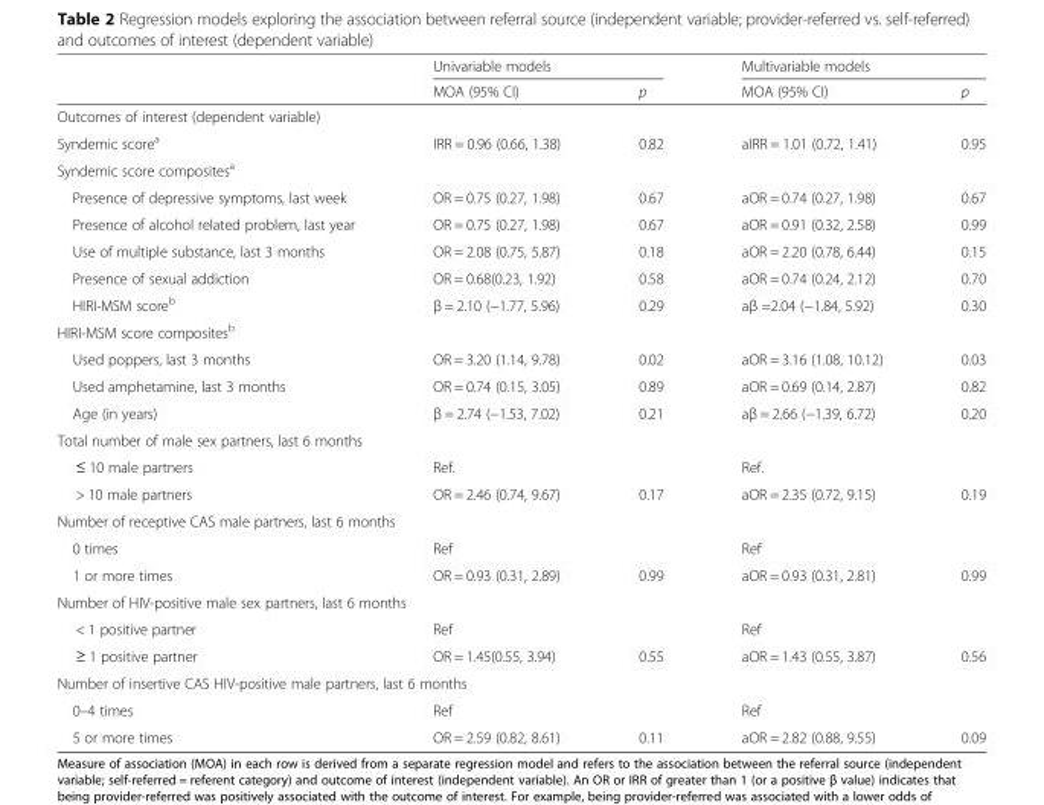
<table><thead><tr><td rowspan="2"></td><td rowspan="2">Univariable models MOA (95% CI)</td><td rowspan="2">p</td><td rowspan="2">Multivariable models MOA (95% CI)</td><td rowspan="2">p</td></tr><tr></tr></thead><tbody><tr><td colspan="5">Outcomes of interest (dependent variable)</td></tr><tr><td>Syndemic score<sup>a</sup></td><td>IRR = 0.96 (0.66, 1.38)</td><td>0.82</td><td>aIRR = 1.01 (0.72, 1.41)</td><td>0.95</td></tr><tr><td colspan="5">Syndemic score composites<sup>a</sup></td></tr><tr><td>Presence of depressive symptoms, last week</td><td>OR = 0.75 (0.27, 1.98)</td><td>0.67</td><td>aOR = 0.74 (0.27, 1.98)</td><td>0.67</td></tr><tr><td>Presence of alcohol related problem, last year</td><td>OR = 0.75 (0.27, 1.98)</td><td>0.67</td><td>aOR = 0.91 (0.32, 2.58)</td><td>0.99</td></tr><tr><td>Use of multiple substance, last 3 months</td><td>OR = 2.08 (0.75, 5.87)</td><td>0.18</td><td>aOR = 2.20 (0.78, 6.44)</td><td>0.15</td></tr><tr><td>Presence of sexual addiction</td><td>OR = 0.68(0.23, 1.92)</td><td>0.58</td><td>aOR = 0.74 (0.24, 2.12)</td><td>0.70</td></tr><tr><td>HIRI-MSM score<sup>b</sup></td><td>β = 2.10 (−1.77, 5.96)</td><td>0.29</td><td>aβ =2.04 (−1.84, 5.92)</td><td>0.30</td></tr><tr><td colspan="5">HIRI-MSM score composites<sup>b</sup></td></tr><tr><td>Used poppers, last 3 months</td><td>OR = 3.20 (1.14, 9.78)</td><td>0.02</td><td>aOR = 3.16 (1.08, 10.12)</td><td>0.03</td></tr><tr><td>Used amphetamine, last 3 months</td><td>OR = 0.74 (0.15, 3.05)</td><td>0.89</td><td>aOR = 0.69 (0.14, 2.87)</td><td>0.82</td></tr><tr><td>Age (in years)</td><td>β = 2.74 (−1.53, 7.02)</td><td>0.21</td><td>aβ = 2.66 (−1.39, 6.72)</td><td>0.20</td></tr><tr><td colspan="5">Total number of male sex partners, last 6 months</td></tr><tr><td>≤ 10 male partners</td><td>Ref.</td><td></td><td>Ref.</td><td></td></tr><tr><td>&gt; 10 male partners</td><td>OR = 2.46 (0.74, 9.67)</td><td>0.17</td><td>aOR = 2.35 (0.72, 9.15)</td><td>0.19</td></tr><tr><td colspan="5">Number of receptive CAS male partners, last 6 months</td></tr><tr><td>0 times</td><td>Ref</td><td></td><td>Ref</td><td></td></tr><tr><td>1 or more times</td><td>OR = 0.93 (0.31, 2.89)</td><td>0.99</td><td>aOR = 0.93 (0.31, 2.81)</td><td>0.99</td></tr><tr><td colspan="5">Number of HIV-positive male sex partners, last 6 months</td></tr><tr><td>&lt; 1 positive partner</td><td>Ref</td><td></td><td>Ref</td><td></td></tr><tr><td>≥ 1 positive partner</td><td>OR = 1.45(0.55, 3.94)</td><td>0.55</td><td>aOR = 1.43 (0.55, 3.87)</td><td>0.56</td></tr><tr><td colspan="5">Number of insertive CAS HIV-positive male partners, last 6 months</td></tr><tr><td>0–4 times</td><td>Ref</td><td></td><td>Ref</td><td></td></tr><tr><td>5 or more times</td><td>OR = 2.59 (0.82, 8.61)</td><td>0.11</td><td>aOR = 2.82 (0.88, 9.55)</td><td>0.09</td></tr></tbody></table>